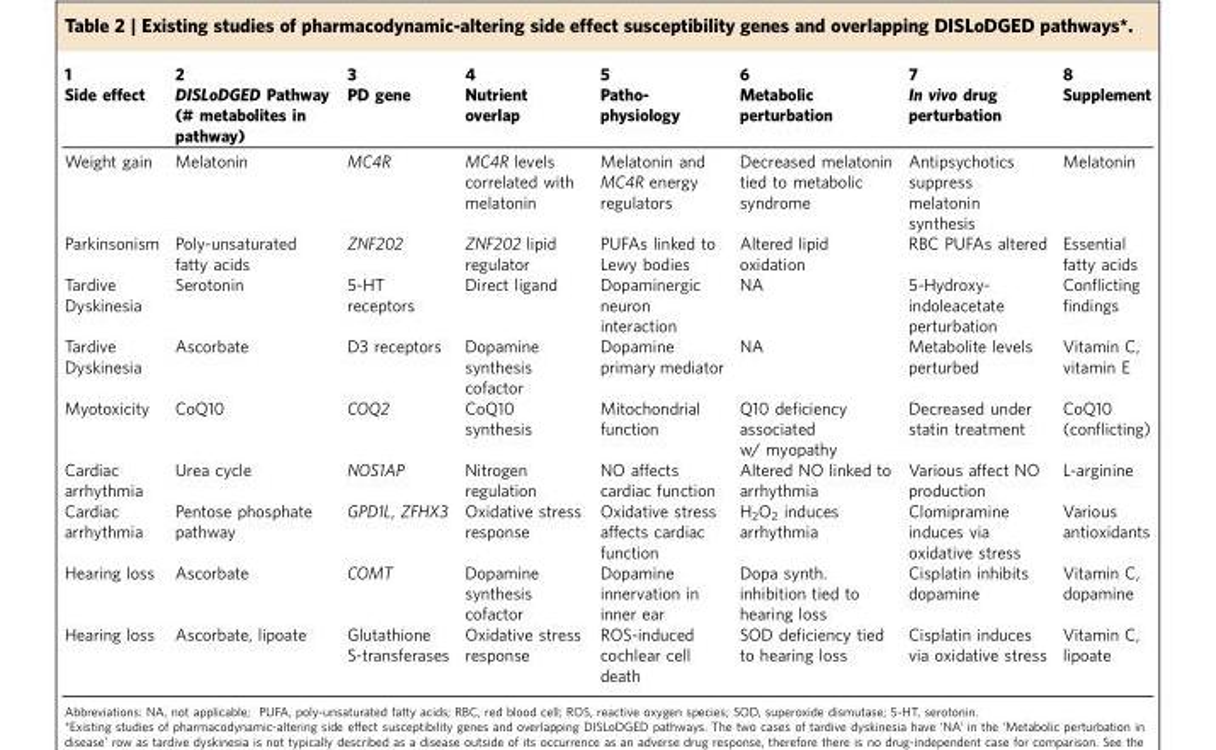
<table><thead><tr><td>1 Side effect</td><td>2 DISLoDGED Pathway (# metabolites in pathway)</td><td>3 PD gene</td><td>4 Nutrient overlap</td><td>5 Patho- physiology</td><td>6 Metabolic perturbation</td><td>7 In vivo drug perturbation</td><td>8 Supplement</td></tr></thead><tbody><tr><td>Weight gain</td><td>Melatonin</td><td>MC4R</td><td>MC4R levels correlated with melatonin</td><td>Melatonin and MC4R energy regulators</td><td>Decreased melatonin tied to metabolic syndrome</td><td>Antipsychotics suppress melatonin synthesis</td><td>Melatonin</td></tr><tr><td>Parkinsonism</td><td>Poly-unsaturated fatty acids</td><td>ZNF202</td><td>ZNF202 lipid regulator</td><td>PUFAs linked to Lewy bodies</td><td>Altered lipid oxidation</td><td>RBC PUFAs altered</td><td>Essential fatty acids</td></tr><tr><td>Tardive Dyskinesia</td><td>Serotonin</td><td>5-HT receptors</td><td>Direct ligand</td><td>Dopaminergic neuron interaction</td><td>NA</td><td>5-Hydroxy- indoleacetate perturbation</td><td>Conflicting findings</td></tr><tr><td>Tardive Dyskinesia</td><td>Ascorbate</td><td>D3 receptors</td><td>Dopamine synthesis cofactor</td><td>Dopamine primary mediator</td><td>NA</td><td>Metabolite levels perturbed</td><td>Vitamin C, vitamin E</td></tr><tr><td>Myotoxicity</td><td>CoQ10</td><td>COQ2</td><td>CoQ10 synthesis</td><td>Mitochondrial function</td><td>Q10 deficiency associated w/ myopathy</td><td>Decreased under statin treatment</td><td>CoQ10 (conflicting)</td></tr><tr><td>Cardiac arrhythmia</td><td>Urea cycle</td><td>NOS1AP</td><td>Nitrogen regulation</td><td>NO affects cardiac function</td><td>Altered NO linked to arrhythmia</td><td>Various affect NO production</td><td>L-arginine</td></tr><tr><td>Cardiac arrhythmia</td><td>Pentose phosphate pathway</td><td>GPD1L, ZFHX3</td><td>Oxidative stress response</td><td>Oxidative stress affects cardiac function</td><td>H<sub>2</sub>O<sub>2</sub> induces arrhythmia</td><td>Clomipramine induces via oxidative stress</td><td>Various antioxidants</td></tr><tr><td>Hearing loss</td><td>Ascorbate</td><td>COMT</td><td>Dopamine synthesis cofactor</td><td>Dopamine innervation in inner ear</td><td>Dopa synth. inhibition tied to hearing loss</td><td>Cisplatin inhibits dopamine</td><td>Vitamin C, dopamine</td></tr><tr><td>Hearing loss</td><td>Ascorbate, lipoate</td><td>Glutathione S-transferases</td><td>Oxidative stress response</td><td>ROS-induced cochlear cell death</td><td>SOD deficiency tied to hearing loss</td><td>Cisplatin induces via oxidative stress</td><td>Vitamin C, lipoate</td></tr></tbody></table>